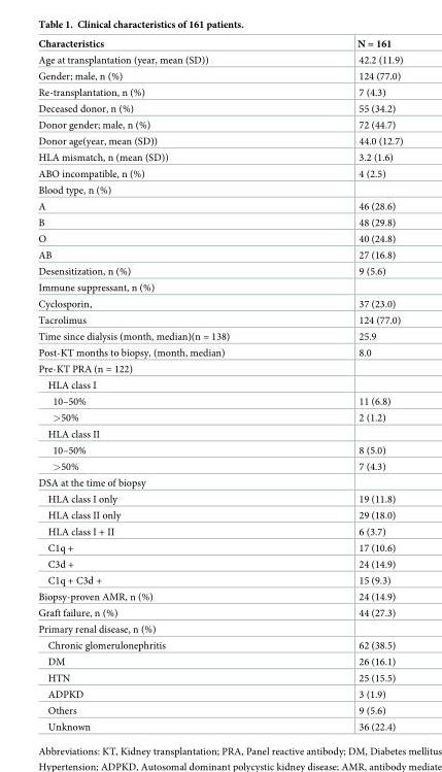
<table><thead><tr><td>Characteristics</td><td>N = 161</td></tr></thead><tbody><tr><td>Age at transplantation (year, mean (SD))</td><td>42.2 (11.9)</td></tr><tr><td>Gender; male, n (%)</td><td>124 (77.0)</td></tr><tr><td>Re-transplantation, n (%)</td><td>7 (4.3)</td></tr><tr><td>Deceased donor, n (%)</td><td>55 (34.2)</td></tr><tr><td>Donor gender; male, n (%)</td><td>72 (44.7)</td></tr><tr><td>Donor age(year, mean (SD))</td><td>44.0 (12.7)</td></tr><tr><td>HLA mismatch, n (mean (SD))</td><td>3.2 (1.6)</td></tr><tr><td>ABO incompatible, n (%)</td><td>4 (2.5)</td></tr><tr><td colspan="2">Blood type, n (%)</td></tr><tr><td>A</td><td>46 (28.6)</td></tr><tr><td>B</td><td>48 (29.8)</td></tr><tr><td>O</td><td>40 (24.8)</td></tr><tr><td>AB</td><td>27 (16.8)</td></tr><tr><td>Desensitization, n (%)</td><td>9 (5.6)</td></tr><tr><td colspan="2">Immune suppressant, n (%)</td></tr><tr><td>Cyclosporin,</td><td>37 (23.0)</td></tr><tr><td>Tacrolimus</td><td>124 (77.0)</td></tr><tr><td>Time since dialysis (month, median)(n = 138)</td><td>25.9</td></tr><tr><td>Post-KT months to biopsy, (month, median)</td><td>8.0</td></tr><tr><td colspan="2">Pre-KT PRA (n = 122)</td></tr><tr><td colspan="2">HLA class I</td></tr><tr><td>10–50%</td><td>11 (6.8)</td></tr><tr><td>&gt;50%</td><td>2 (1.2)</td></tr><tr><td colspan="2">HLA class II</td></tr><tr><td>10–50%</td><td>8 (5.0)</td></tr><tr><td>&gt;50%</td><td>7 (4.3)</td></tr><tr><td colspan="2">DSA at the time of biopsy</td></tr><tr><td>HLA class I only</td><td>19 (11.8)</td></tr><tr><td>HLA class II only</td><td>29 (18.0)</td></tr><tr><td>HLA class I + II</td><td>6 (3.7)</td></tr><tr><td>C1q +</td><td>17 (10.6)</td></tr><tr><td>C3d +</td><td>24 (14.9)</td></tr><tr><td>C1q + C3d +</td><td>15 (9.3)</td></tr><tr><td>Biopsy-proven AMR, n (%)</td><td>24 (14.9)</td></tr><tr><td>Graft failure, n (%)</td><td>44 (27.3)</td></tr><tr><td colspan="2">Primary renal disease, n (%)</td></tr><tr><td>Chronic glomerulonephritis</td><td>62 (38.5)</td></tr><tr><td>DM</td><td>26 (16.1)</td></tr><tr><td>HTN</td><td>25 (15.5)</td></tr><tr><td>ADPKD</td><td>3 (1.9)</td></tr><tr><td>Others</td><td>9 (5.6)</td></tr><tr><td>Unknown</td><td>36 (22.4)</td></tr></tbody></table>